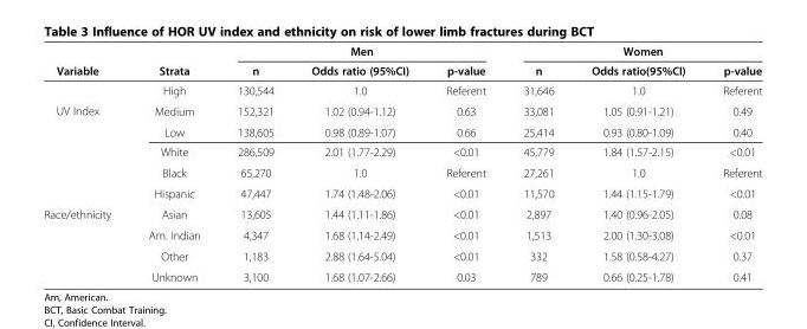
<table><thead><tr><td rowspan="2">Variable</td><td rowspan="2">Strata</td><td colspan="3">Men</td><td colspan="3">Women</td></tr><tr><td>n</td><td>Odds ratio (95%CI)</td><td>p-value</td><td>n</td><td>Odds ratio(95%CI)</td><td>p-value</td></tr></thead><tbody><tr><td rowspan="3">UV Index</td><td>High</td><td>130,544</td><td>1.0</td><td>Referent</td><td>31,646</td><td>1.0</td><td>Referent</td></tr><tr><td>Medium</td><td>152,321</td><td>1.02 (0.94-1.12)</td><td>0.63</td><td>33,081</td><td>1.05 (0.91-1.21)</td><td>0.49</td></tr><tr><td>Low</td><td>138,605</td><td>0.98 (0.89-1.07)</td><td>0.66</td><td>25,414</td><td>0.93 (0.80-1.09)</td><td>0.40</td></tr><tr><td rowspan="7">Race/ethnicity</td><td>White</td><td>286,509</td><td>2.01 (1.77-2.29)</td><td>&lt;0.01</td><td>45,779</td><td>1.84 (1.57-2.15)</td><td>&lt;0.01</td></tr><tr><td>Black</td><td>65,270</td><td>1.0</td><td>Referent</td><td>27,261</td><td>1.0</td><td>Referent</td></tr><tr><td>Hispanic</td><td>47,447</td><td>1.74 (1.48-2.06)</td><td>&lt;0.01</td><td>11,570</td><td>1.44 (1.15-1.79)</td><td>&lt;0.01</td></tr><tr><td>Asian</td><td>13,605</td><td>1.44 (1.11-1.86)</td><td>&lt;0.01</td><td>2,897</td><td>1.40 (0.96-2.05)</td><td>0.08</td></tr><tr><td>Am. Indian</td><td>4,347</td><td>1.68 (1.14-2.49)</td><td>&lt;0.01</td><td>1,513</td><td>2.00 (1.30-3.08)</td><td>&lt;0.01</td></tr><tr><td>Other</td><td>1,183</td><td>2.88 (1.64-5.04)</td><td>&lt;0.01</td><td>332</td><td>1.58 (0.58-4.27)</td><td>0.37</td></tr><tr><td>Unknown</td><td>3,100</td><td>1.68 (1.07-2.66)</td><td>0.03</td><td>789</td><td>0.66 (0.25-1.78)</td><td>0.41</td></tr></tbody></table>